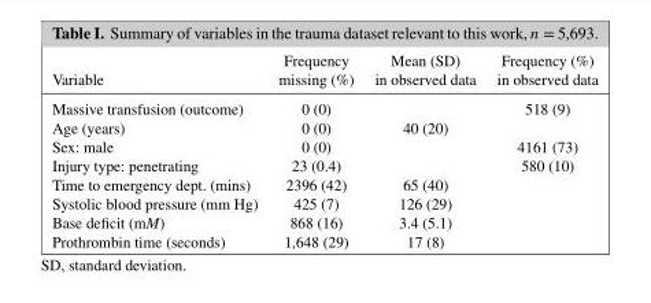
<table><thead><tr><td rowspan="2">Variable</td><td rowspan="2">Frequency missing (%)</td><td rowspan="2">Mean (SD) in observed data</td><td rowspan="2">Frequency (%) in observed data</td></tr><tr></tr></thead><tbody><tr><td>Massive transfusion (outcome)</td><td>0 (0)</td><td></td><td>518 (9)</td></tr><tr><td>Age (years)</td><td>0 (0)</td><td>40 (20)</td><td></td></tr><tr><td>Sex: male</td><td>0 (0)</td><td></td><td>4161 (73)</td></tr><tr><td>Injury type: penetrating</td><td>23 (0.4)</td><td></td><td>580 (10)</td></tr><tr><td>Time to emergency dept. (mins)</td><td>2396 (42)</td><td>65 (40)</td><td></td></tr><tr><td>Systolic blood pressure (mm Hg)</td><td>425 (7)</td><td>126 (29)</td><td></td></tr><tr><td>Base deficit (mM)</td><td>868 (16)</td><td>3.4 (5.1)</td><td></td></tr><tr><td>Prothrombin time (seconds)</td><td>1,648 (29)</td><td>17 (8)</td><td></td></tr></tbody></table>